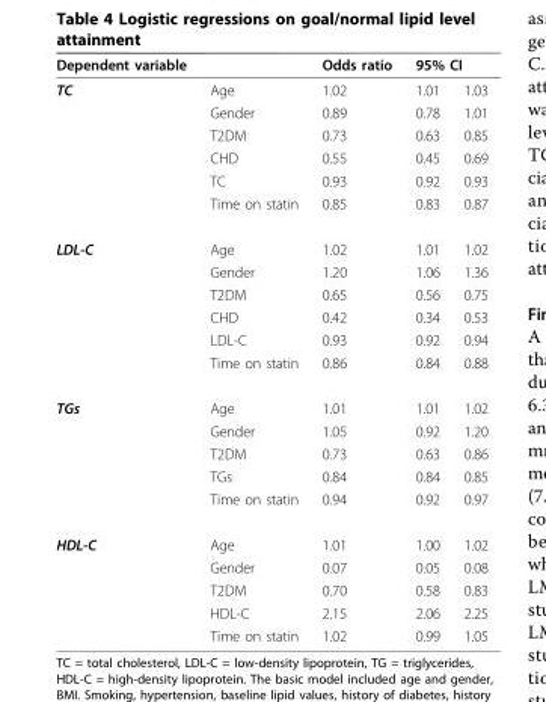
<table><thead><tr><td rowspan="2">Dependent variable TC</td><td rowspan="2">Age</td><td rowspan="2">Odds ratio 1.02</td><td colspan="2">95% CI</td></tr><tr><td>1.01</td><td>1.03</td></tr></thead><tbody><tr><td></td><td>Gender</td><td>0.89</td><td>0.78</td><td>1.01</td></tr><tr><td></td><td>T2DM</td><td>0.73</td><td>0.63</td><td>0.85</td></tr><tr><td></td><td>CHD</td><td>0.55</td><td>0.45</td><td>0.69</td></tr><tr><td></td><td>TC</td><td>0.93</td><td>0.92</td><td>0.93</td></tr><tr><td></td><td>Time on statin</td><td>0.85</td><td>0.83</td><td>0.87</td></tr><tr><td rowspan="6">LDL-C</td><td>Age</td><td>1.02</td><td>1.01</td><td>1.02</td></tr><tr><td>Gender</td><td>1.20</td><td>1.06</td><td>1.36</td></tr><tr><td>T2DM</td><td>0.65</td><td>0.56</td><td>0.75</td></tr><tr><td>CHD</td><td>0.42</td><td>0.34</td><td>0.53</td></tr><tr><td>LDL-C</td><td>0.93</td><td>0.92</td><td>0.94</td></tr><tr><td>Time on statin</td><td>0.86</td><td>0.84</td><td>0.88</td></tr><tr><td rowspan="5">TGs</td><td>Age</td><td>1.01</td><td>1.01</td><td>1.02</td></tr><tr><td>Gender</td><td>1.05</td><td>0.92</td><td>1.20</td></tr><tr><td>T2DM</td><td>0.73</td><td>0.63</td><td>0.86</td></tr><tr><td>TGs</td><td>0.84</td><td>0.84</td><td>0.85</td></tr><tr><td>Time on statin</td><td>0.94</td><td>0.92</td><td>0.97</td></tr><tr><td rowspan="5">HDL-C</td><td>Age</td><td>1.01</td><td>1.00</td><td>1.02</td></tr><tr><td>Gender</td><td>0.07</td><td>0.05</td><td>0.08</td></tr><tr><td>T2DM</td><td>0.70</td><td>0.58</td><td>0.83</td></tr><tr><td>HDL-C</td><td>2.15</td><td>2.06</td><td>2.25</td></tr><tr><td>Time on statin</td><td>1.02</td><td>0.99</td><td>1.05</td></tr></tbody></table>